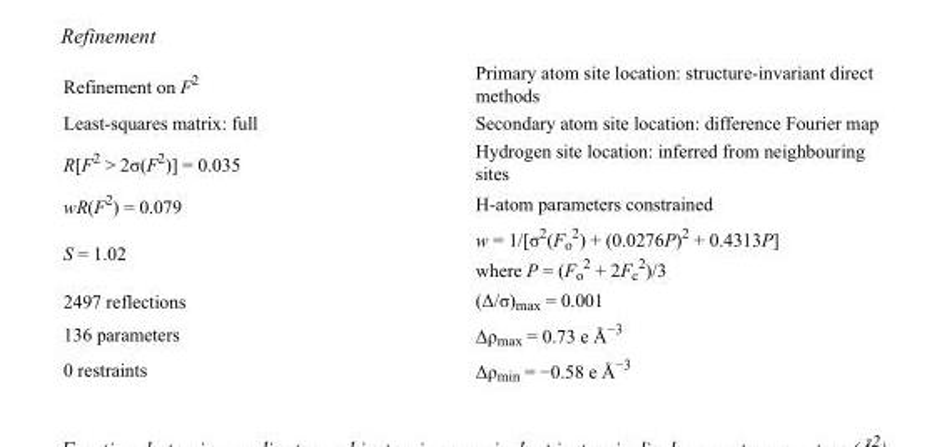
<table><tbody><tr><td>Refinement on F<sup>2</sup></td><td>Primary atom site location: structure-invariant direct methods</td></tr><tr><td>Least-squares matrix: full</td><td>Secondary atom site location: difference Fourier map</td></tr><tr><td>R[F<sup>2</sup> &gt; 2σ(F<sup>2</sup>)] = 0.035</td><td>Hydrogen site location: inferred from neighbouring sites</td></tr><tr><td>wR(F<sup>2</sup>) = 0.079</td><td>H-atom parameters constrained</td></tr><tr><td>S = 1.02</td><td>w = 1/[σ<sup>2</sup>(F<sub>o</sub> <sup>2</sup>) + (0.0276P)<sup>2</sup> + 0.4313P] where P = (F<sub>o</sub> <sup>2</sup> + 2F<sub>c</sub> <sup>2</sup>)/3</td></tr><tr><td>2497 reflections</td><td>(Δ/σ)<sub>max</sub> = 0.001</td></tr><tr><td>136 parameters</td><td>Δρ<sub>max</sub> = 0.73 e Å<sup>−3</sup></td></tr><tr><td>0 restraints</td><td>Δρ<sub>min</sub> = −0.58 e Å<sup>−3</sup></td></tr></tbody></table>